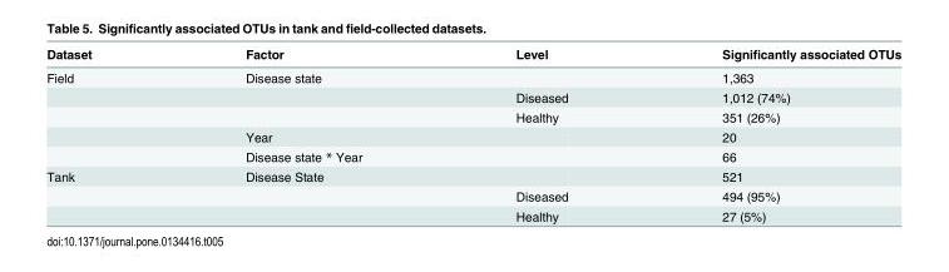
<table><thead><tr><td>Dataset</td><td>Factor</td><td>Level</td><td>Significantly associated OTUs</td></tr></thead><tbody><tr><td rowspan="5">Field</td><td>Disease state</td><td></td><td>1,363</td></tr><tr><td></td><td>Diseased</td><td>1,012 (74%)</td></tr><tr><td></td><td>Healthy</td><td>351 (26%)</td></tr><tr><td>Year</td><td></td><td>20</td></tr><tr><td>Disease state * Year</td><td></td><td>66</td></tr><tr><td rowspan="3">Tank</td><td>Disease State</td><td></td><td>521</td></tr><tr><td></td><td>Diseased</td><td>494 (95%)</td></tr><tr><td></td><td>Healthy</td><td>27 (5%)</td></tr></tbody></table>